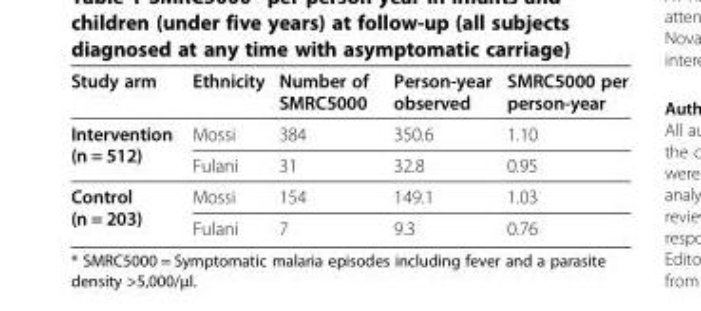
<table><thead><tr><td>Study arm</td><td>Ethnicity</td><td>Number of SMRC5000</td><td>Person-year observed</td><td>SMRC5000 per person-year</td></tr></thead><tbody><tr><td rowspan="2">Intervention (n = 512)</td><td>Mossi</td><td>384</td><td>350.6</td><td>1.10</td></tr><tr><td>Fulani</td><td>31</td><td>32.8</td><td>0.95</td></tr><tr><td rowspan="2">Control (n = 203)</td><td>Mossi</td><td>154</td><td>149.1</td><td>1.03</td></tr><tr><td>Fulani</td><td>7</td><td>9.3</td><td>0.76</td></tr></tbody></table>